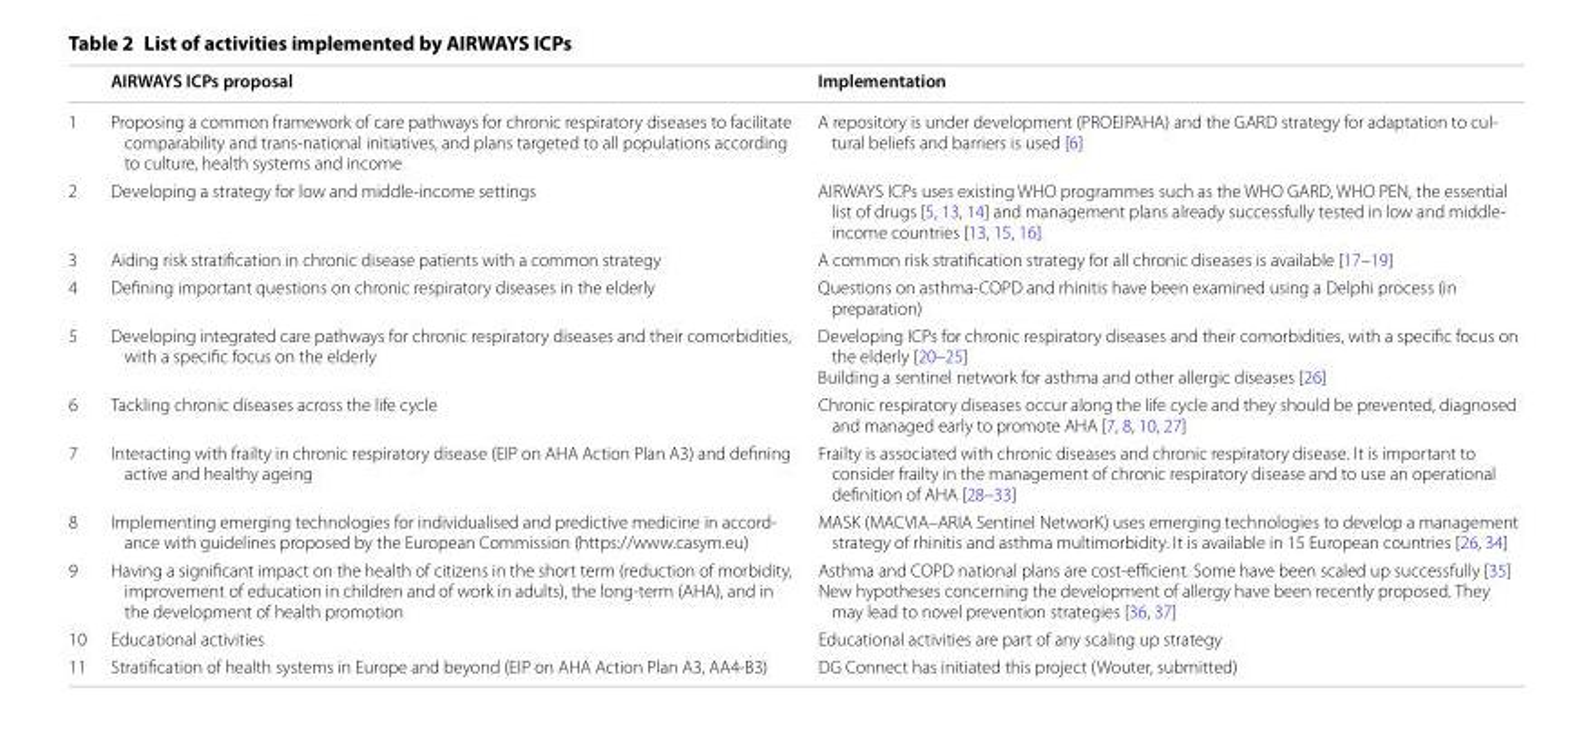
<table><thead><tr><td></td><td>AIRWAYS ICPs proposal</td><td>Implementation</td></tr></thead><tbody><tr><td>1</td><td>Proposing a common framework of care pathways for chronic respiratory diseases to facilitate comparability and trans‑national initiatives, and plans targeted to all populations according to culture, health systems and income</td><td>A repository is under development (PROEIPAHA) and the GARD strategy for adaptation to cul‑ tural beliefs and barriers is used [6]</td></tr><tr><td>2</td><td>Developing a strategy for low and middle‑income settings</td><td>AIRWAYS ICPs uses existing WHO programmes such as the WHO GARD, WHO PEN, the essential list of drugs [5, 13, 14] and management plans already successfully tested in low and middle‑ income countries [13, 15, 16]</td></tr><tr><td>3</td><td>Aiding risk stratification in chronic disease patients with a common strategy</td><td>A common risk stratification strategy for all chronic diseases is available [17–19]</td></tr><tr><td>4</td><td>Defining important questions on chronic respiratory diseases in the elderly</td><td>Questions on asthma‑COPD and rhinitis have been examined using a Delphi process (in preparation)</td></tr><tr><td>5</td><td>Developing integrated care pathways for chronic respiratory diseases and their comorbidities, with a specific focus on the elderly</td><td>Developing ICPs for chronic respiratory diseases and their comorbidities, with a specific focus on the elderly [20–25] Building a sentinel network for asthma and other allergic diseases [26]</td></tr><tr><td>6</td><td>Tackling chronic diseases across the life cycle</td><td>Chronic respiratory diseases occur along the life cycle and they should be prevented, diagnosed and managed early to promote AHA [7, 8, 10, 27]</td></tr><tr><td>7</td><td>Interacting with frailty in chronic respiratory disease (EIP on AHA Action Plan A3) and defining active and healthy ageing</td><td>Frailty is associated with chronic diseases and chronic respiratory disease. It is important to consider frailty in the management of chronic respiratory disease and to use an operational definition of AHA [28–33]</td></tr><tr><td>8</td><td>Implementing emerging technologies for individualised and predictive medicine in accord‑ ance with guidelines proposed by the European Commission (https://www.casym.eu)</td><td>MASK (MACVIA–ARIA Sentinel NetworK) uses emerging technologies to develop a management strategy of rhinitis and asthma multimorbidity. It is available in 15 European countries [26, 34]</td></tr><tr><td>9</td><td>Having a significant impact on the health of citizens in the short term (reduction of morbidity, improvement of education in children and of work in adults), the long‑term (AHA), and in the development of health promotion</td><td>Asthma and COPD national plans are cost‑efficient. Some have been scaled up successfully [35] New hypotheses concerning the development of allergy have been recently proposed. They may lead to novel prevention strategies [36, 37]</td></tr><tr><td>10</td><td>Educational activities</td><td>Educational activities are part of any scaling up strategy</td></tr><tr><td>11</td><td>Stratification of health systems in Europe and beyond (EIP on AHA Action Plan A3, AA4‑B3)</td><td>DG Connect has initiated this project (Wouter, submitted)</td></tr></tbody></table>